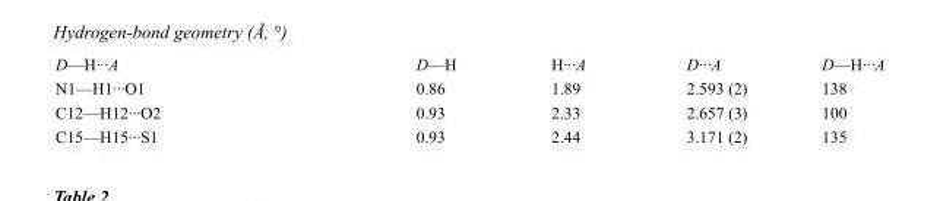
<table><tbody><tr><td>D—H···A</td><td>D—H</td><td>H···A</td><td>D···A</td><td>D—H···A</td></tr><tr><td>N1—H1···O1</td><td>0.86</td><td>1.89</td><td>2.593 (2)</td><td>138</td></tr><tr><td>C12—H12···O2</td><td>0.93</td><td>2.33</td><td>2.657 (3)</td><td>100</td></tr><tr><td>C15—H15···S1</td><td>0.93</td><td>2.44</td><td>3.171 (2)</td><td>135</td></tr></tbody></table>